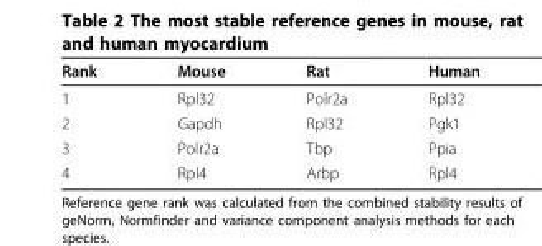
<table><thead><tr><td>Rank</td><td>Mouse</td><td>Rat</td><td>Human</td></tr></thead><tbody><tr><td>1</td><td>Rpl32</td><td>Polr2a</td><td>Rpl32</td></tr><tr><td>2</td><td>Gapdh</td><td>Rpl32</td><td>Pgk1</td></tr><tr><td>3</td><td>Polr2a</td><td>Tbp</td><td>Ppia</td></tr><tr><td>4</td><td>Rpl4</td><td>Arbp</td><td>Rpl4</td></tr></tbody></table>